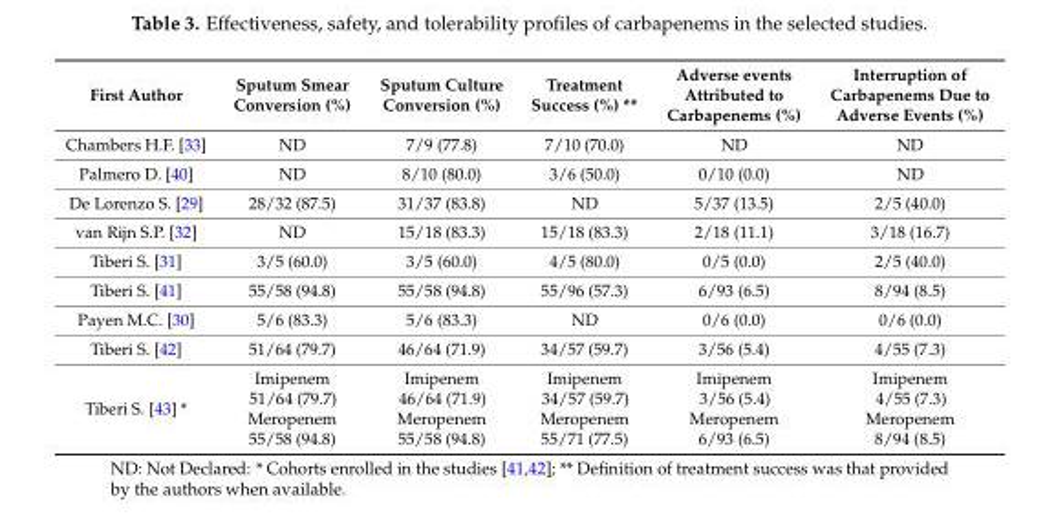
<table><thead><tr><td>First Author</td><td>Sputum Smear Conversion (%)</td><td>Sputum Culture Conversion (%)</td><td>Treatment Success (%) **</td><td>Adverse events Attributed to Carbapenems (%)</td><td>Interruption of Carbapenems Due to Adverse Events (%)</td></tr></thead><tbody><tr><td>Chambers H.F. [33]</td><td>ND</td><td>7/9 (77.8)</td><td>7/10 (70.0)</td><td>ND</td><td>ND</td></tr><tr><td>Palmero D. [40]</td><td>ND</td><td>8/10 (80.0)</td><td>3/6 (50.0)</td><td>0/10 (0.0)</td><td>ND</td></tr><tr><td>De Lorenzo S. [29]</td><td>28/32 (87.5)</td><td>31/37 (83.8)</td><td>ND</td><td>5/37 (13.5)</td><td>2/5 (40.0)</td></tr><tr><td>van Rijn S.P. [32]</td><td>ND</td><td>15/18 (83.3)</td><td>15/18 (83.3)</td><td>2/18 (11.1)</td><td>3/18 (16.7)</td></tr><tr><td>Tiberi S. [31]</td><td>3/5 (60.0)</td><td>3/5 (60.0)</td><td>4/5 (80.0)</td><td>0/5 (0.0)</td><td>2/5 (40.0)</td></tr><tr><td>Tiberi S. [41]</td><td>55/58 (94.8)</td><td>55/58 (94.8)</td><td>55/96 (57.3)</td><td>6/93 (6.5)</td><td>8/94 (8.5)</td></tr><tr><td>Payen M.C. [30]</td><td>5/6 (83.3)</td><td>5/6 (83.3)</td><td>ND</td><td>0/6 (0.0)</td><td>0/6 (0.0)</td></tr><tr><td>Tiberi S. [42]</td><td>51/64 (79.7)</td><td>46/64 (71.9)</td><td>34/57 (59.7)</td><td>3/56 (5.4)</td><td>4/55 (7.3)</td></tr><tr><td>Tiberi S. [43] *</td><td>Imipenem 51/64 (79.7) Meropenem 55/58 (94.8)</td><td>Imipenem 46/64 (71.9) Meropenem 55/58 (94.8)</td><td>Imipenem 34/57 (59.7) Meropenem 55/71 (77.5)</td><td>Imipenem 3/56 (5.4) Meropenem 6/93 (6.5)</td><td>Imipenem 4/55 (7.3) Meropenem 8/94 (8.5)</td></tr></tbody></table>